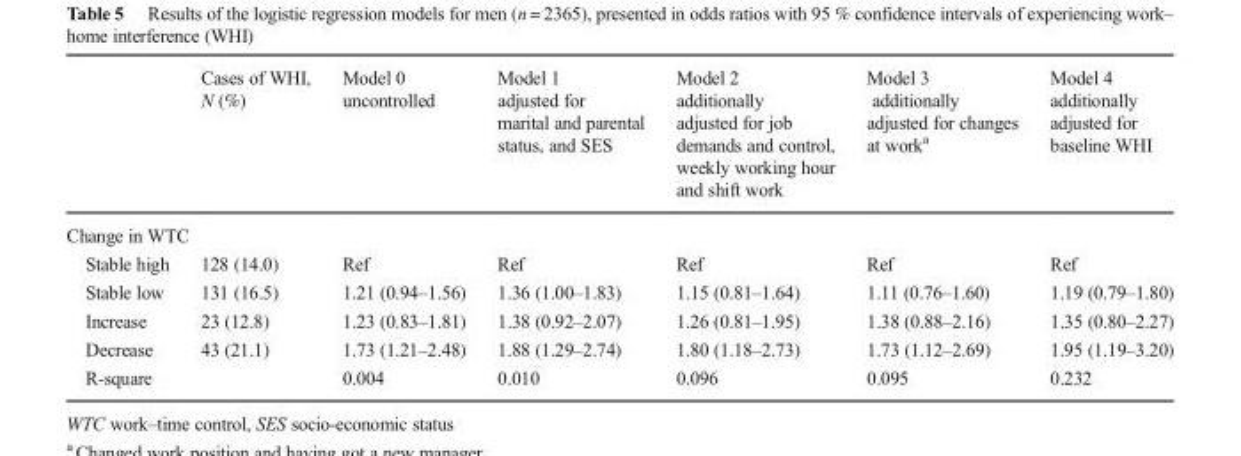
<table><thead><tr><td></td><td>Cases of WHI, N (%)</td><td>Model 0 uncontrolled</td><td>Model 1 adjusted for marital and parental status, and SES</td><td>Model 2 additionally adjusted for job demands and control, weekly working hour and shift work</td><td>Model 3 additionally adjusted for changes at work<sup>a</sup></td><td>Model 4 additionally adjusted for baseline WHI</td></tr></thead><tbody><tr><td colspan="7">Change in WTC</td></tr><tr><td>Stable high</td><td>128 (14.0)</td><td>Ref</td><td>Ref</td><td>Ref</td><td>Ref</td><td>Ref</td></tr><tr><td>Stable low</td><td>131 (16.5)</td><td>1.21 (0.94–1.56)</td><td>1.36 (1.00–1.83)</td><td>1.15 (0.81–1.64)</td><td>1.11 (0.76–1.60)</td><td>1.19 (0.79–1.80)</td></tr><tr><td>Increase</td><td>23 (12.8)</td><td>1.23 (0.83–1.81)</td><td>1.38 (0.92–2.07)</td><td>1.26 (0.81–1.95)</td><td>1.38 (0.88–2.16)</td><td>1.35 (0.80–2.27)</td></tr><tr><td>Decrease</td><td>43 (21.1)</td><td>1.73 (1.21–2.48)</td><td>1.88 (1.29–2.74)</td><td>1.80 (1.18–2.73)</td><td>1.73 (1.12–2.69)</td><td>1.95 (1.19–3.20)</td></tr><tr><td>R-square</td><td></td><td>0.004</td><td>0.010</td><td>0.096</td><td>0.095</td><td>0.232</td></tr></tbody></table>